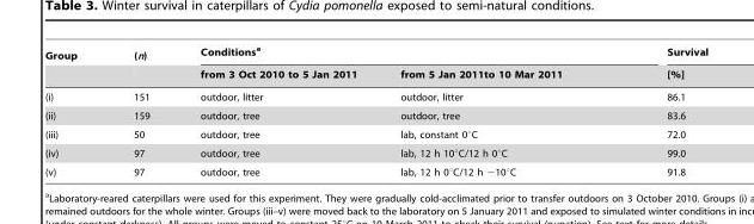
<table><thead><tr><td rowspan="2">Group</td><td rowspan="2">(n)</td><td colspan="2">Conditions<sup>a</sup></td><td rowspan="2">Survival [%]</td></tr><tr><td>from 3 Oct 2010 to 5 Jan 2011</td><td>from 5 Jan 2011to 10 Mar 2011</td></tr></thead><tbody><tr><td>(i)</td><td>151</td><td>outdoor, litter</td><td>outdoor, litter</td><td>86.1</td></tr><tr><td>(ii)</td><td>159</td><td>outdoor, tree</td><td>outdoor, tree</td><td>83.6</td></tr><tr><td>(iii)</td><td>50</td><td>outdoor, tree</td><td>lab, constant 0°C</td><td>72.0</td></tr><tr><td>(iv)</td><td>97</td><td>outdoor, tree</td><td>lab, 12 h 10°C/12 h 0°C</td><td>99.0</td></tr><tr><td>(v)</td><td>97</td><td>outdoor, tree</td><td>lab, 12 h 0°C/12 h −10°C</td><td>91.8</td></tr></tbody></table>